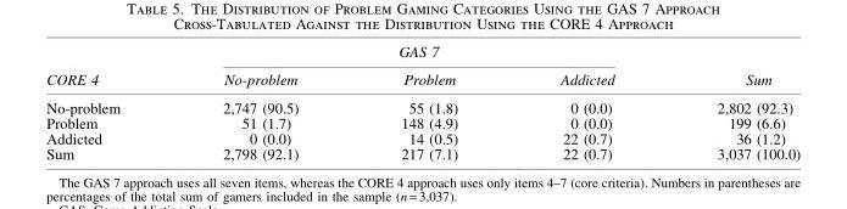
<table><thead><tr><td rowspan="2">CORE 4</td><td colspan="3">GAS 7</td><td rowspan="2">Sum</td></tr><tr><td>No-problem</td><td>Problem</td><td>Addicted</td></tr></thead><tbody><tr><td>No-problem</td><td>2,747 (90.5)</td><td>55 (1.8)</td><td>0 (0.0)</td><td>2,802 (92.3)</td></tr><tr><td>Problem</td><td>51 (1.7)</td><td>148 (4.9)</td><td>0 (0.0)</td><td>199 (6.6)</td></tr><tr><td>Addicted</td><td>0 (0.0)</td><td>14 (0.5)</td><td>22 (0.7)</td><td>36 (1.2)</td></tr><tr><td>Sum</td><td>2,798 (92.1)</td><td>217 (7.1)</td><td>22 (0.7)</td><td>3,037 (100.0)</td></tr></tbody></table>